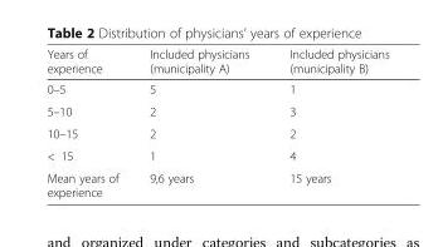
<table><thead><tr><td>Years of experience</td><td>Included physicians (municipality A)</td><td>Included physicians (municipality B)</td></tr></thead><tbody><tr><td>0–5</td><td>5</td><td>1</td></tr><tr><td>5–10</td><td>2</td><td>3</td></tr><tr><td>10–15</td><td>2</td><td>2</td></tr><tr><td>&lt; 15</td><td>1</td><td>4</td></tr><tr><td>Mean years of experience</td><td>9,6 years</td><td>15 years</td></tr></tbody></table>